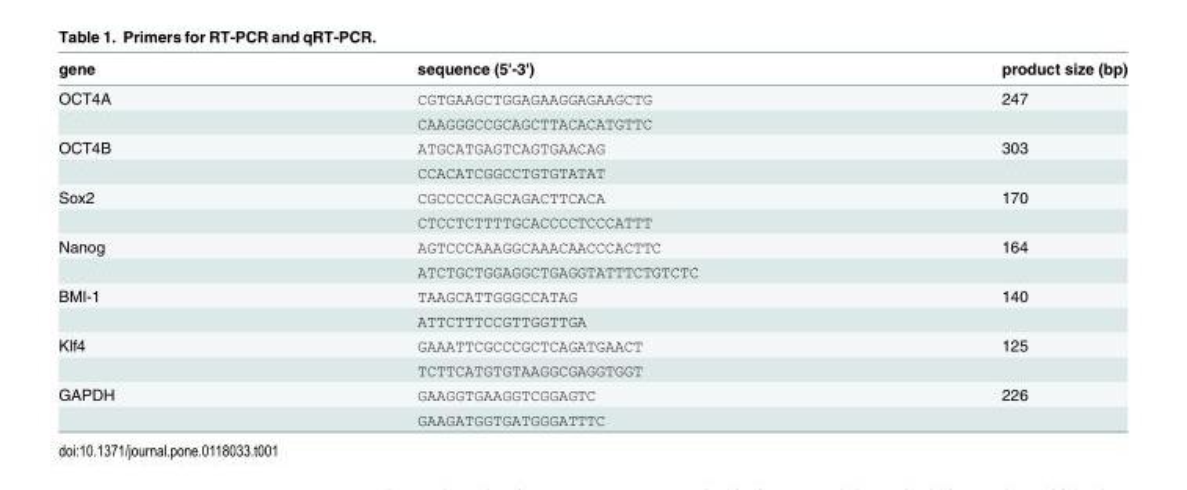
<table><thead><tr><td>gene</td><td>sequence (5&#x27;-3&#x27;)</td><td>product size (bp)</td></tr></thead><tbody><tr><td rowspan="2">OCT4A</td><td>CGTGAAGCTGGAGAAGGAGAAGCTG</td><td>247</td></tr><tr><td>CAAGGGCCGCAGCTTACACATGTTC</td><td></td></tr><tr><td rowspan="2">OCT4B</td><td>ATGCATGAGTCAGTGAACAG</td><td>303</td></tr><tr><td>CCACATCGGCCTGTGTATAT</td><td></td></tr><tr><td rowspan="2">Sox2</td><td>CGCCCCCAGCAGACTTCACA</td><td>170</td></tr><tr><td>CTCCTCTTTTGCACCCCTCCCATTT</td><td></td></tr><tr><td rowspan="2">Nanog</td><td>AGTCCCAAAGGCAAACAACCCACTTC</td><td>164</td></tr><tr><td>ATCTGCTGGAGGCTGAGGTATTTCTGTCTC</td><td></td></tr><tr><td rowspan="2">BMI-1</td><td>TAAGCATTGGGCCATAG</td><td>140</td></tr><tr><td>ATTCTTTCCGTTGGTTGA</td><td></td></tr><tr><td rowspan="2">Klf4</td><td>GAAATTCGCCCGCTCAGATGAACT</td><td>125</td></tr><tr><td>TCTTCATGTGTAAGGCGAGGTGGT</td><td></td></tr><tr><td rowspan="2">GAPDH</td><td>GAAGGTGAAGGTCGGAGTC</td><td>226</td></tr><tr><td>GAAGATGGTGATGGGATTTC</td><td></td></tr></tbody></table>